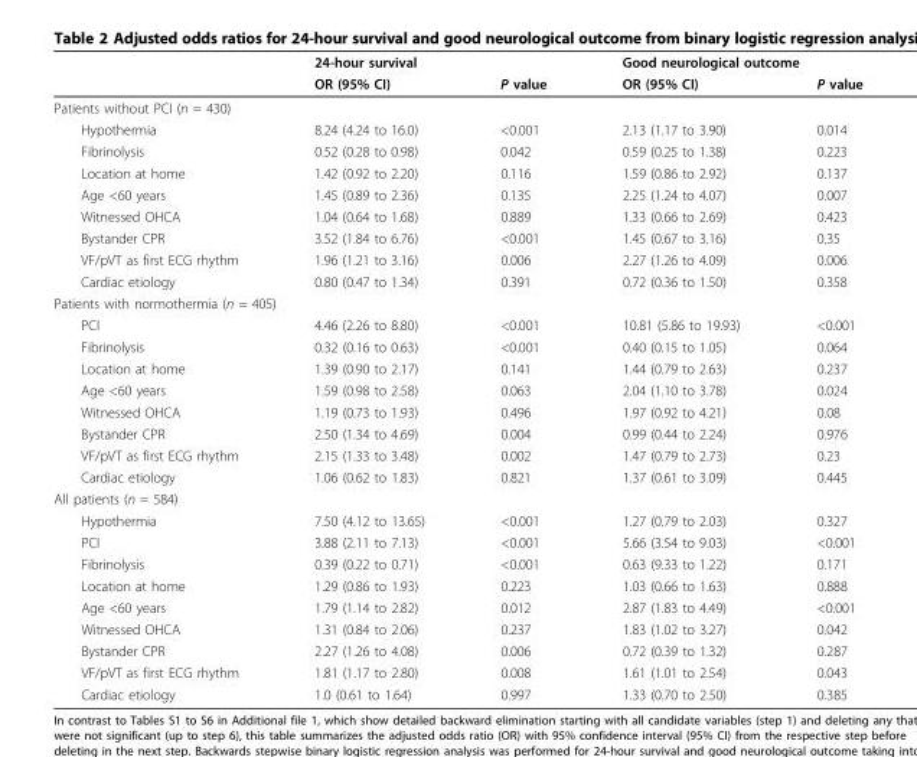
<table><thead><tr><td rowspan="2"></td><td colspan="2">24-hour survival</td><td colspan="2">Good neurological outcome</td></tr><tr><td>OR (95% CI)</td><td>P value</td><td>OR (95% CI)</td><td>P value</td></tr></thead><tbody><tr><td colspan="5">Patients without PCI (n = 430)</td></tr><tr><td>Hypothermia</td><td>8.24 (4.24 to 16.0)</td><td>&lt;0.001</td><td>2.13 (1.17 to 3.90)</td><td>0.014</td></tr><tr><td>Fibrinolysis</td><td>0.52 (0.28 to 0.98)</td><td>0.042</td><td>0.59 (0.25 to 1.38)</td><td>0.223</td></tr><tr><td>Location at home</td><td>1.42 (0.92 to 2.20)</td><td>0.116</td><td>1.59 (0.86 to 2.92)</td><td>0.137</td></tr><tr><td>Age &lt;60 years</td><td>1.45 (0.89 to 2.36)</td><td>0.135</td><td>2.25 (1.24 to 4.07)</td><td>0.007</td></tr><tr><td>Witnessed OHCA</td><td>1.04 (0.64 to 1.68)</td><td>0.889</td><td>1.33 (0.66 to 2.69)</td><td>0.423</td></tr><tr><td>Bystander CPR</td><td>3.52 (1.84 to 6.76)</td><td>&lt;0.001</td><td>1.45 (0.67 to 3.16)</td><td>0.35</td></tr><tr><td>VF/pVT as first ECG rhythm</td><td>1.96 (1.21 to 3.16)</td><td>0.006</td><td>2.27 (1.26 to 4.09)</td><td>0.006</td></tr><tr><td>Cardiac etiology</td><td>0.80 (0.47 to 1.34)</td><td>0.391</td><td>0.72 (0.36 to 1.50)</td><td>0.358</td></tr><tr><td colspan="5">Patients with normothermia (n = 405)</td></tr><tr><td>PCI</td><td>4.46 (2.26 to 8.80)</td><td>&lt;0.001</td><td>10.81 (5.86 to 19.93)</td><td>&lt;0.001</td></tr><tr><td>Fibrinolysis</td><td>0.32 (0.16 to 0.63)</td><td>&lt;0.001</td><td>0.40 (0.15 to 1.05)</td><td>0.064</td></tr><tr><td>Location at home</td><td>1.39 (0.90 to 2.17)</td><td>0.141</td><td>1.44 (0.79 to 2.63)</td><td>0.237</td></tr><tr><td>Age &lt;60 years</td><td>1.59 (0.98 to 2.58)</td><td>0.063</td><td>2.04 (1.10 to 3.78)</td><td>0.024</td></tr><tr><td>Witnessed OHCA</td><td>1.19 (0.73 to 1.93)</td><td>0.496</td><td>1.97 (0.92 to 4.21)</td><td>0.08</td></tr><tr><td>Bystander CPR</td><td>2.50 (1.34 to 4.69)</td><td>0.004</td><td>0.99 (0.44 to 2.24)</td><td>0.976</td></tr><tr><td>VF/pVT as first ECG rhythm</td><td>2.15 (1.33 to 3.48)</td><td>0.002</td><td>1.47 (0.79 to 2.73)</td><td>0.23</td></tr><tr><td>Cardiac etiology</td><td>1.06 (0.62 to 1.83)</td><td>0.821</td><td>1.37 (0.61 to 3.09)</td><td>0.445</td></tr><tr><td colspan="5">All patients (n = 584)</td></tr><tr><td>Hypothermia</td><td>7.50 (4.12 to 13.65)</td><td>&lt;0.001</td><td>1.27 (0.79 to 2.03)</td><td>0.327</td></tr><tr><td>PCI</td><td>3.88 (2.11 to 7.13)</td><td>&lt;0.001</td><td>5.66 (3.54 to 9.03)</td><td>&lt;0.001</td></tr><tr><td>Fibrinolysis</td><td>0.39 (0.22 to 0.71)</td><td>&lt;0.001</td><td>0.63 (9.33 to 1.22)</td><td>0.171</td></tr><tr><td>Location at home</td><td>1.29 (0.86 to 1.93)</td><td>0.223</td><td>1.03 (0.66 to 1.63)</td><td>0.888</td></tr><tr><td>Age &lt;60 years</td><td>1.79 (1.14 to 2.82)</td><td>0.012</td><td>2.87 (1.83 to 4.49)</td><td>&lt;0.001</td></tr><tr><td>Witnessed OHCA</td><td>1.31 (0.84 to 2.06)</td><td>0.237</td><td>1.83 (1.02 to 3.27)</td><td>0.042</td></tr><tr><td>Bystander CPR</td><td>2.27 (1.26 to 4.08)</td><td>0.006</td><td>0.72 (0.39 to 1.32)</td><td>0.287</td></tr><tr><td>VF/pVT as first ECG rhythm</td><td>1.81 (1.17 to 2.80)</td><td>0.008</td><td>1.61 (1.01 to 2.54)</td><td>0.043</td></tr><tr><td>Cardiac etiology</td><td>1.0 (0.61 to 1.64)</td><td>0.997</td><td>1.33 (0.70 to 2.50)</td><td>0.385</td></tr></tbody></table>